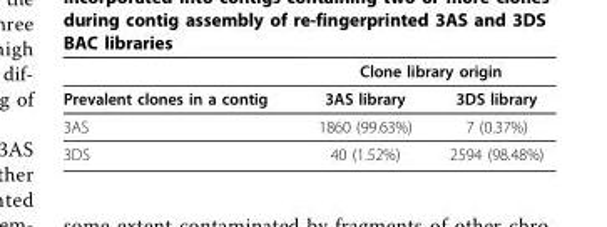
<table><thead><tr><td rowspan="2">Prevalent clones in a contig</td><td colspan="2">Clone library origin</td></tr><tr><td>3AS library</td><td>3DS library</td></tr></thead><tbody><tr><td>3AS</td><td>1860 (99.63%)</td><td>7 (0.37%)</td></tr><tr><td>3DS</td><td>40 (1.52%)</td><td>2594 (98.48%)</td></tr></tbody></table>